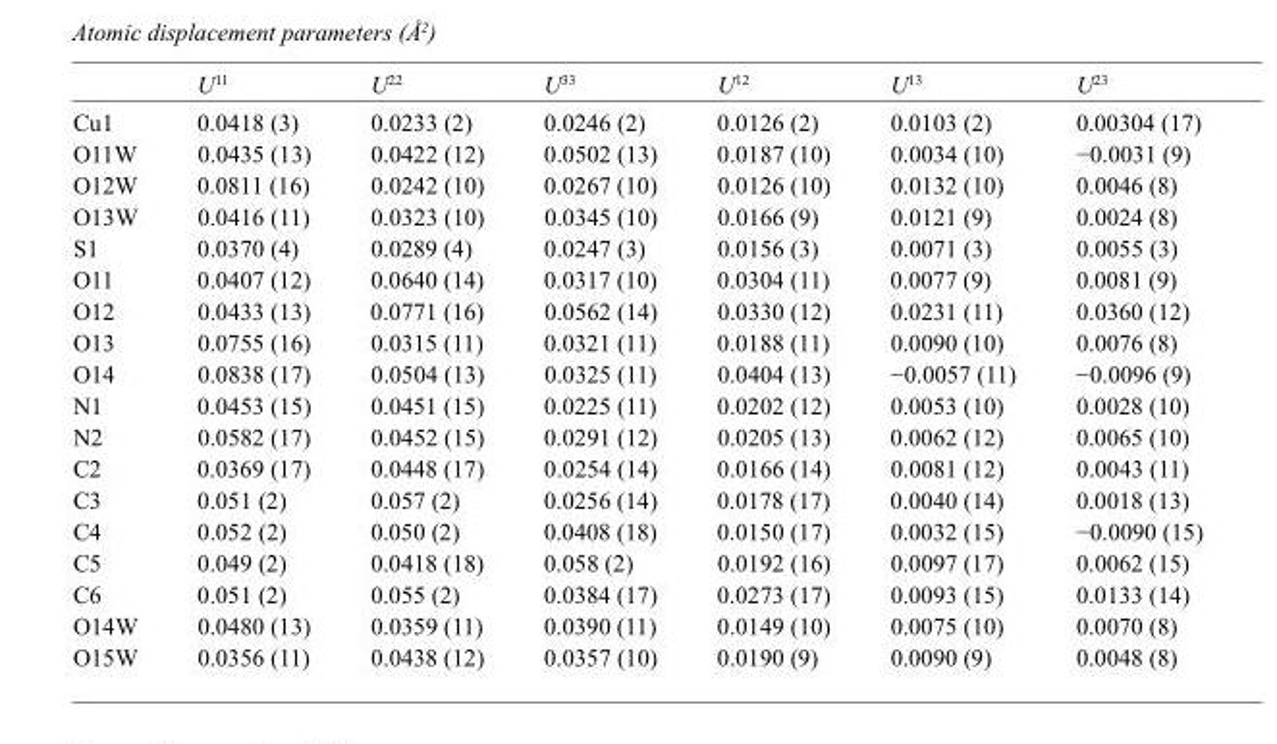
<table><thead><tr><td></td><td>U<sup>11</sup></td><td>U<sup>22</sup></td><td>U<sup>33</sup></td><td>U<sup>12</sup></td><td>U<sup>13</sup></td><td>U<sup>23</sup></td></tr></thead><tbody><tr><td>Cu1</td><td>0.0418 (3)</td><td>0.0233 (2)</td><td>0.0246 (2)</td><td>0.0126 (2)</td><td>0.0103 (2)</td><td>0.00304 (17)</td></tr><tr><td>O11W</td><td>0.0435 (13)</td><td>0.0422 (12)</td><td>0.0502 (13)</td><td>0.0187 (10)</td><td>0.0034 (10)</td><td>−0.0031 (9)</td></tr><tr><td>O12W</td><td>0.0811 (16)</td><td>0.0242 (10)</td><td>0.0267 (10)</td><td>0.0126 (10)</td><td>0.0132 (10)</td><td>0.0046 (8)</td></tr><tr><td>O13W</td><td>0.0416 (11)</td><td>0.0323 (10)</td><td>0.0345 (10)</td><td>0.0166 (9)</td><td>0.0121 (9)</td><td>0.0024 (8)</td></tr><tr><td>S1</td><td>0.0370 (4)</td><td>0.0289 (4)</td><td>0.0247 (3)</td><td>0.0156 (3)</td><td>0.0071 (3)</td><td>0.0055 (3)</td></tr><tr><td>O11</td><td>0.0407 (12)</td><td>0.0640 (14)</td><td>0.0317 (10)</td><td>0.0304 (11)</td><td>0.0077 (9)</td><td>0.0081 (9)</td></tr><tr><td>O12</td><td>0.0433 (13)</td><td>0.0771 (16)</td><td>0.0562 (14)</td><td>0.0330 (12)</td><td>0.0231 (11)</td><td>0.0360 (12)</td></tr><tr><td>O13</td><td>0.0755 (16)</td><td>0.0315 (11)</td><td>0.0321 (11)</td><td>0.0188 (11)</td><td>0.0090 (10)</td><td>0.0076 (8)</td></tr><tr><td>O14</td><td>0.0838 (17)</td><td>0.0504 (13)</td><td>0.0325 (11)</td><td>0.0404 (13)</td><td>−0.0057 (11)</td><td>−0.0096 (9)</td></tr><tr><td>N1</td><td>0.0453 (15)</td><td>0.0451 (15)</td><td>0.0225 (11)</td><td>0.0202 (12)</td><td>0.0053 (10)</td><td>0.0028 (10)</td></tr><tr><td>N2</td><td>0.0582 (17)</td><td>0.0452 (15)</td><td>0.0291 (12)</td><td>0.0205 (13)</td><td>0.0062 (12)</td><td>0.0065 (10)</td></tr><tr><td>C2</td><td>0.0369 (17)</td><td>0.0448 (17)</td><td>0.0254 (14)</td><td>0.0166 (14)</td><td>0.0081 (12)</td><td>0.0043 (11)</td></tr><tr><td>C3</td><td>0.051 (2)</td><td>0.057 (2)</td><td>0.0256 (14)</td><td>0.0178 (17)</td><td>0.0040 (14)</td><td>0.0018 (13)</td></tr><tr><td>C4</td><td>0.052 (2)</td><td>0.050 (2)</td><td>0.0408 (18)</td><td>0.0150 (17)</td><td>0.0032 (15)</td><td>−0.0090 (15)</td></tr><tr><td>C5</td><td>0.049 (2)</td><td>0.0418 (18)</td><td>0.058 (2)</td><td>0.0192 (16)</td><td>0.0097 (17)</td><td>0.0062 (15)</td></tr><tr><td>C6</td><td>0.051 (2)</td><td>0.055 (2)</td><td>0.0384 (17)</td><td>0.0273 (17)</td><td>0.0093 (15)</td><td>0.0133 (14)</td></tr><tr><td>O14W</td><td>0.0480 (13)</td><td>0.0359 (11)</td><td>0.0390 (11)</td><td>0.0149 (10)</td><td>0.0075 (10)</td><td>0.0070 (8)</td></tr><tr><td>O15W</td><td>0.0356 (11)</td><td>0.0438 (12)</td><td>0.0357 (10)</td><td>0.0190 (9)</td><td>0.0090 (9)</td><td>0.0048 (8)</td></tr></tbody></table>